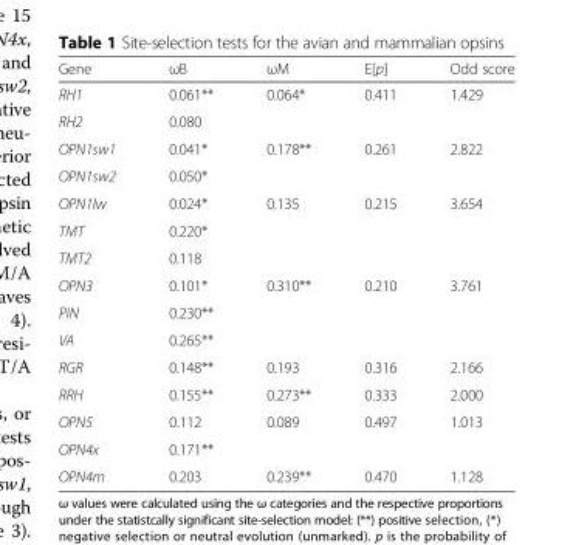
<table><thead><tr><td>Gene</td><td>ωB</td><td>ωM</td><td>E[p]</td><td>Odd score</td></tr></thead><tbody><tr><td>RH1</td><td>0.061**</td><td>0.064*</td><td>0.411</td><td>1.429</td></tr><tr><td>RH2</td><td>0.080</td><td></td><td></td><td></td></tr><tr><td>OPN1sw1</td><td>0.041*</td><td>0.178**</td><td>0.261</td><td>2.822</td></tr><tr><td>OPN1sw2</td><td>0.050*</td><td></td><td></td><td></td></tr><tr><td>OPN1lw</td><td>0.024*</td><td>0.135</td><td>0.215</td><td>3.654</td></tr><tr><td>TMT</td><td>0.220*</td><td></td><td></td><td></td></tr><tr><td>TMT2</td><td>0.118</td><td></td><td></td><td></td></tr><tr><td>OPN3</td><td>0.101*</td><td>0.310**</td><td>0.210</td><td>3.761</td></tr><tr><td>PIN</td><td>0.230**</td><td></td><td></td><td></td></tr><tr><td>VA</td><td>0.265**</td><td></td><td></td><td></td></tr><tr><td>RGR</td><td>0.148**</td><td>0.193</td><td>0.316</td><td>2.166</td></tr><tr><td>RRH</td><td>0.155**</td><td>0.273**</td><td>0.333</td><td>2.000</td></tr><tr><td>OPN5</td><td>0.112</td><td>0.089</td><td>0.497</td><td>1.013</td></tr><tr><td>OPN4x</td><td>0.171**</td><td></td><td></td><td></td></tr><tr><td>OPN4m</td><td>0.203</td><td>0.239**</td><td>0.470</td><td>1.128</td></tr></tbody></table>